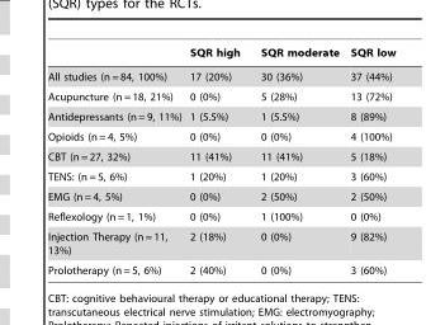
<table><thead><tr><td></td><td>SQR high</td><td>SQR moderate</td><td>SQR low</td></tr></thead><tbody><tr><td>All studies (n = 84, 100%)</td><td>17 (20%)</td><td>30 (36%)</td><td>37 (44%)</td></tr><tr><td>Acupuncture (n = 18, 21%)</td><td>0 (0%)</td><td>5 (28%)</td><td>13 (72%)</td></tr><tr><td>Antidepressants (n = 9, 11%)</td><td>1 (5.5%)</td><td>1 (5.5%)</td><td>8 (89%)</td></tr><tr><td>Opioids (n = 4, 5%)</td><td>0 (0%)</td><td>0 (0%)</td><td>4 (100%)</td></tr><tr><td>CBT (n = 27, 32%)</td><td>11 (41%)</td><td>11 (41%)</td><td>5 (18%)</td></tr><tr><td>TENS: (n = 5, 6%)</td><td>1 (20%)</td><td>1 (20%)</td><td>3 (60%)</td></tr><tr><td>EMG (n = 4, 5%)</td><td>0 (0%)</td><td>2 (50%)</td><td>2 (50%)</td></tr><tr><td>Reflexology (n = 1, 1%)</td><td>0 (0%)</td><td>1 (100%)</td><td>0 (0%)</td></tr><tr><td>Injection Therapy (n = 11, 13%)</td><td>2 (18%)</td><td>0 (0%)</td><td>9 (82%)</td></tr><tr><td>Prolotherapy (n = 5, 6%)</td><td>2 (40%)</td><td>0 (0%)</td><td>3 (60%)</td></tr></tbody></table>